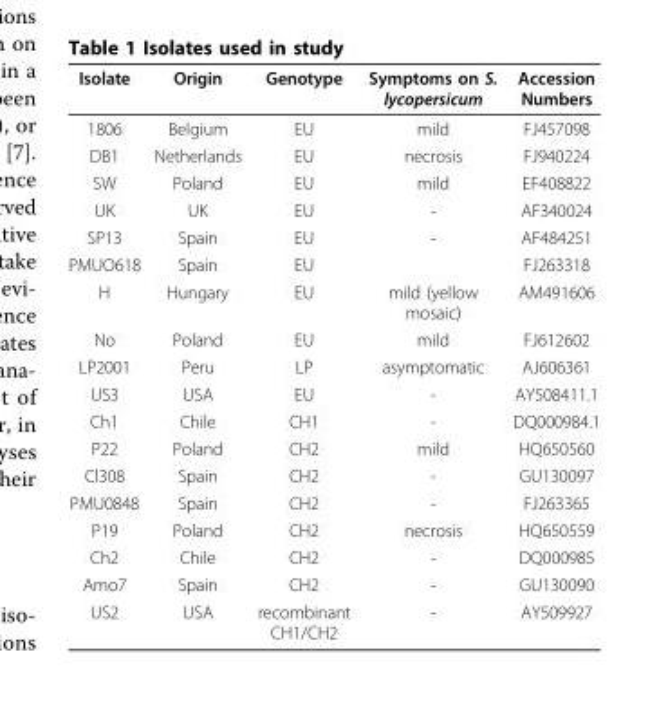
<table><thead><tr><td>Isolate</td><td>Origin</td><td>Genotype</td><td>Symptoms on S. lycopersicum</td><td>Accession Numbers</td></tr></thead><tbody><tr><td>1806</td><td>Belgium</td><td>EU</td><td>mild</td><td>FJ457098</td></tr><tr><td>DB1</td><td>Netherlands</td><td>EU</td><td>necrosis</td><td>FJ940224</td></tr><tr><td>SW</td><td>Poland</td><td>EU</td><td>mild</td><td>EF408822</td></tr><tr><td>UK</td><td>UK</td><td>EU</td><td>-</td><td>AF340024</td></tr><tr><td>SP13</td><td>Spain</td><td>EU</td><td>-</td><td>AF484251</td></tr><tr><td>PMUO618</td><td>Spain</td><td>EU</td><td></td><td>FJ263318</td></tr><tr><td>H</td><td>Hungary</td><td>EU</td><td>mild (yellow mosaic)</td><td>AM491606</td></tr><tr><td>No</td><td>Poland</td><td>EU</td><td>mild</td><td>FJ612602</td></tr><tr><td>LP2001</td><td>Peru</td><td>LP</td><td>asymptomatic</td><td>AJ606361</td></tr><tr><td>US3</td><td>USA</td><td>EU</td><td>-</td><td>AY508411.1</td></tr><tr><td>Ch1</td><td>Chile</td><td>CH1</td><td>-</td><td>DQ000984.1</td></tr><tr><td>P22</td><td>Poland</td><td>CH2</td><td>mild</td><td>HQ650560</td></tr><tr><td>Cl308</td><td>Spain</td><td>CH2</td><td>-</td><td>GU130097</td></tr><tr><td>PMU0848</td><td>Spain</td><td>CH2</td><td>-</td><td>FJ263365</td></tr><tr><td>P19</td><td>Poland</td><td>CH2</td><td>necrosis</td><td>HQ650559</td></tr><tr><td>Ch2</td><td>Chile</td><td>CH2</td><td>-</td><td>DQ000985</td></tr><tr><td>Amo7</td><td>Spain</td><td>CH2</td><td>-</td><td>GU130090</td></tr><tr><td>US2</td><td>USA</td><td>recombinant CH1/CH2</td><td>-</td><td>AY509927</td></tr></tbody></table>